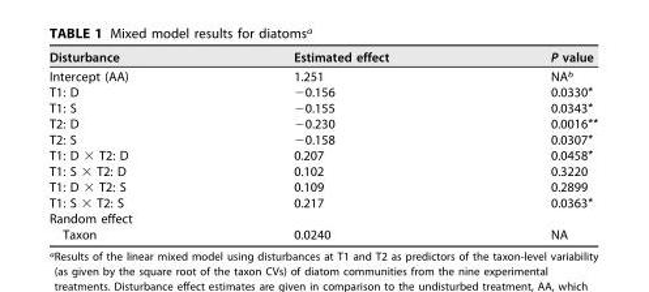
<table><thead><tr><td>Disturbance</td><td>Estimated effect</td><td>P value</td></tr></thead><tbody><tr><td>Intercept (AA)</td><td>1.251</td><td>NA<sup>b</sup></td></tr><tr><td>T1: D</td><td>−0.156</td><td>0.0330*</td></tr><tr><td>T1: S</td><td>−0.155</td><td>0.0343*</td></tr><tr><td>T2: D</td><td>−0.230</td><td>0.0016**</td></tr><tr><td>T2: S</td><td>−0.158</td><td>0.0307*</td></tr><tr><td>T1: D × T2: D</td><td>0.207</td><td>0.0458*</td></tr><tr><td>T1: S × T2: D</td><td>0.102</td><td>0.3220</td></tr><tr><td>T1: D × T2: S</td><td>0.109</td><td>0.2899</td></tr><tr><td>T1: S × T2: S</td><td>0.217</td><td>0.0363*</td></tr><tr><td colspan="3">Random effect</td></tr><tr><td>Taxon</td><td>0.0240</td><td>NA</td></tr></tbody></table>